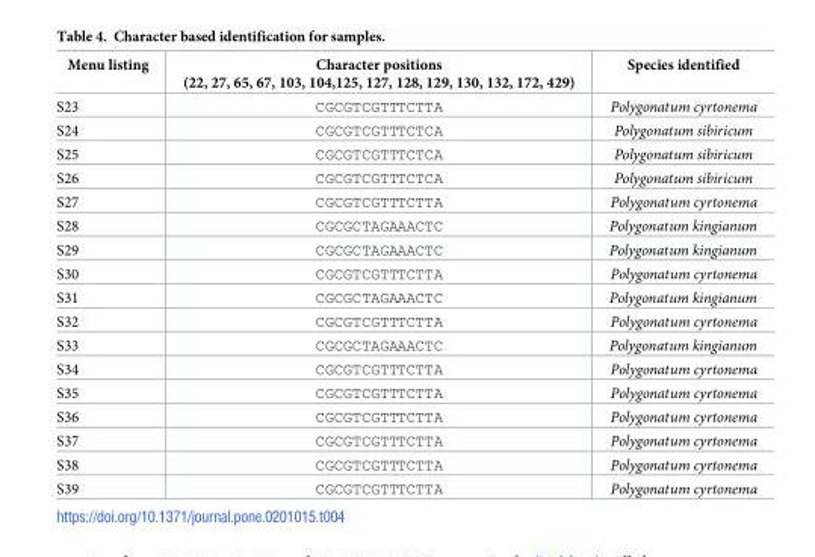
<table><thead><tr><td>Menu listing</td><td>Character positions (22, 27, 65, 67, 103, 104,125, 127, 128, 129, 130, 132, 172, 429)</td><td>Species identified</td></tr></thead><tbody><tr><td>S23</td><td>CGCGTCGTTTCTTA</td><td>Polygonatum cyrtonema</td></tr><tr><td>S24</td><td>CGCGTCGTTTCTCA</td><td>Polygonatum sibiricum</td></tr><tr><td>S25</td><td>CGCGTCGTTTCTCA</td><td>Polygonatum sibiricum</td></tr><tr><td>S26</td><td>CGCGTCGTTTCTCA</td><td>Polygonatum sibiricum</td></tr><tr><td>S27</td><td>CGCGTCGTTTCTTA</td><td>Polygonatum cyrtonema</td></tr><tr><td>S28</td><td>CGCGCTAGAAACTC</td><td>Polygonatum kingianum</td></tr><tr><td>S29</td><td>CGCGCTAGAAACTC</td><td>Polygonatum kingianum</td></tr><tr><td>S30</td><td>CGCGTCGTTTCTTA</td><td>Polygonatum cyrtonema</td></tr><tr><td>S31</td><td>CGCGCTAGAAACTC</td><td>Polygonatum kingianum</td></tr><tr><td>S32</td><td>CGCGTCGTTTCTTA</td><td>Polygonatum cyrtonema</td></tr><tr><td>S33</td><td>CGCGCTAGAAACTC</td><td>Polygonatum kingianum</td></tr><tr><td>S34</td><td>CGCGTCGTTTCTTA</td><td>Polygonatum cyrtonema</td></tr><tr><td>S35</td><td>CGCGTCGTTTCTTA</td><td>Polygonatum cyrtonema</td></tr><tr><td>S36</td><td>CGCGTCGTTTCTTA</td><td>Polygonatum cyrtonema</td></tr><tr><td>S37</td><td>CGCGTCGTTTCTTA</td><td>Polygonatum cyrtonema</td></tr><tr><td>S38</td><td>CGCGTCGTTTCTTA</td><td>Polygonatum cyrtonema</td></tr><tr><td>S39</td><td>CGCGTCGTTTCTTA</td><td>Polygonatum cyrtonema</td></tr></tbody></table>